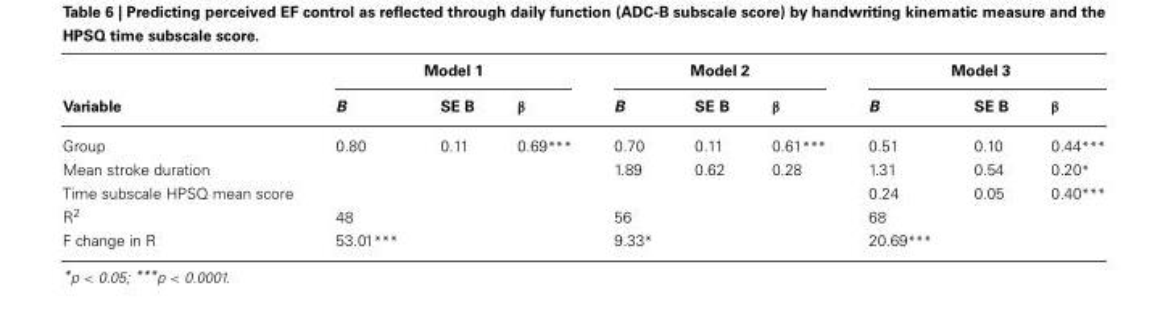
<table><thead><tr><td rowspan="2">Variable</td><td colspan="3">Model 1</td><td colspan="3">Model 2</td><td colspan="3">Model 3</td></tr><tr><td>B</td><td>SE B</td><td>β</td><td>B</td><td>SE B</td><td>β</td><td>B</td><td>SE B</td><td>β</td></tr></thead><tbody><tr><td>Group</td><td>0.80</td><td>0.11</td><td>0.69***</td><td>0.70</td><td>0.11</td><td>0.61***</td><td>0.51</td><td>0.10</td><td>0.44***</td></tr><tr><td>Mean stroke duration</td><td></td><td></td><td></td><td>1.89</td><td>0.62</td><td>0.28</td><td>1.31</td><td>0.54</td><td>0.20*</td></tr><tr><td>Time subscale HPSQ mean score</td><td></td><td></td><td></td><td></td><td></td><td></td><td>0.24</td><td>0.05</td><td>0.40***</td></tr><tr><td>R<sup>2</sup></td><td>48</td><td></td><td></td><td>56</td><td></td><td></td><td>68</td><td></td><td></td></tr><tr><td>F change in R</td><td>53.01***</td><td></td><td></td><td>9.33*</td><td></td><td></td><td>20.69***</td><td></td><td></td></tr></tbody></table>